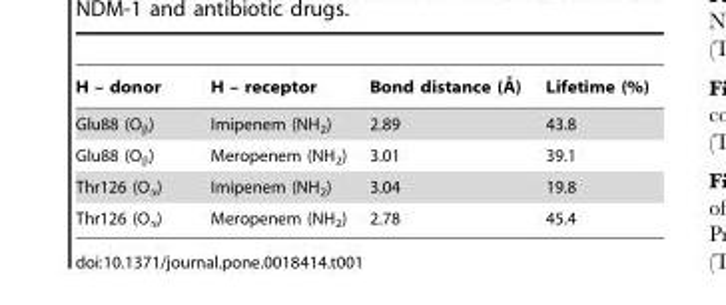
<table><thead><tr><td>H – donor</td><td>H – receptor</td><td>Bond distance (A˚ )</td><td>Lifetime (%)</td></tr></thead><tbody><tr><td>Glu88 (O<sub>β</sub>)</td><td>Imipenem (NH<sub>2</sub>)</td><td>2.89</td><td>43.8</td></tr><tr><td>Glu88 (O<sub>β</sub>)</td><td>Meropenem (NH<sub>2</sub>)</td><td>3.01</td><td>39.1</td></tr><tr><td>Thr126 (O<sub>α</sub>)</td><td>Imipenem (NH<sub>2</sub>)</td><td>3.04</td><td>19.8</td></tr><tr><td>Thr126 (O<sub>α</sub>)</td><td>Meropenem (NH<sub>2</sub>)</td><td>2.78</td><td>45.4</td></tr></tbody></table>